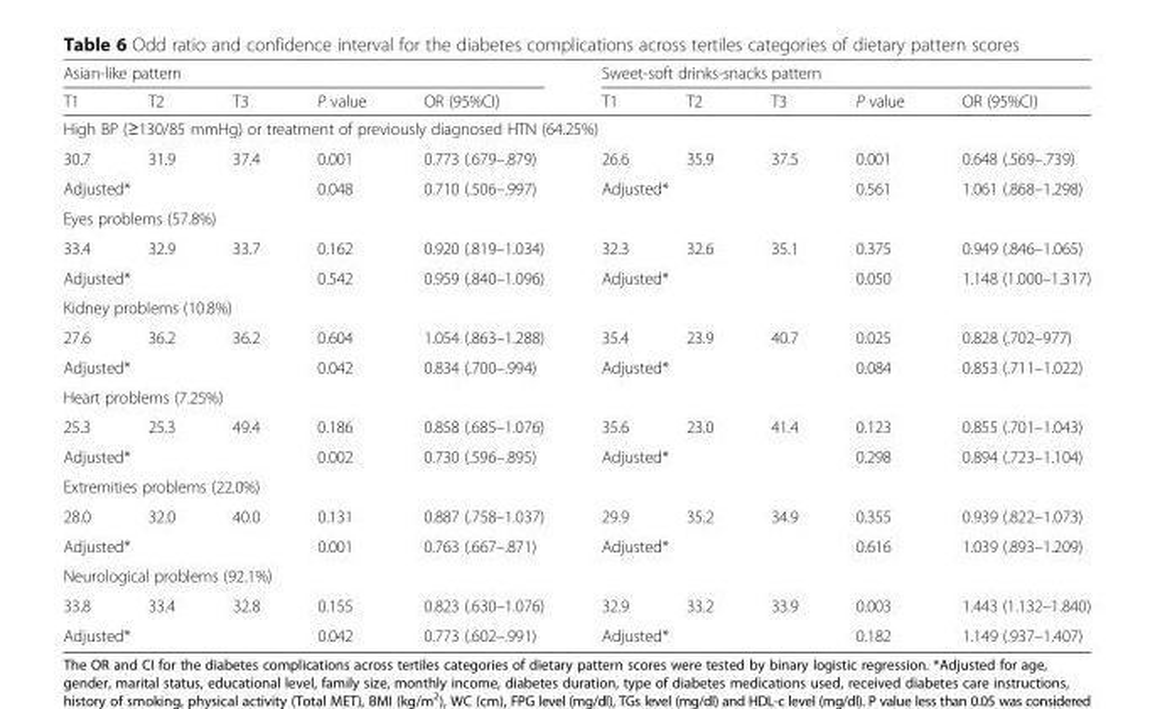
<table><thead><tr><td colspan="5">Asian-like pattern</td><td colspan="5">Sweet-soft drinks-snacks pattern</td></tr><tr><td>T1</td><td>T2</td><td>T3</td><td>P value</td><td>OR (95%CI)</td><td>T1</td><td>T2</td><td>T3</td><td>P value</td><td>OR (95%CI)</td></tr></thead><tbody><tr><td colspan="10">High BP (≥130/85 mmHg) or treatment of previously diagnosed HTN (64.25%)</td></tr><tr><td>30.7</td><td>31.9</td><td>37.4</td><td>0.001</td><td>0.773 (.679–.879)</td><td>26.6</td><td>35.9</td><td>37.5</td><td>0.001</td><td>0.648 (.569–.739)</td></tr><tr><td colspan="3">Adjusted*</td><td>0.048</td><td>0.710 (.506–.997)</td><td colspan="3">Adjusted*</td><td>0.561</td><td>1.061 (.868–1.298)</td></tr><tr><td colspan="10">Eyes problems (57.8%)</td></tr><tr><td>33.4</td><td>32.9</td><td>33.7</td><td>0.162</td><td>0.920 (.819–1.034)</td><td>32.3</td><td>32.6</td><td>35.1</td><td>0.375</td><td>0.949 (.846–1.065)</td></tr><tr><td colspan="3">Adjusted*</td><td>0.542</td><td>0.959 (.840–1.096)</td><td colspan="3">Adjusted*</td><td>0.050</td><td>1.148 (1.000–1.317)</td></tr><tr><td colspan="10">Kidney problems (10.8%)</td></tr><tr><td>27.6</td><td>36.2</td><td>36.2</td><td>0.604</td><td>1.054 (.863–1.288)</td><td>35.4</td><td>23.9</td><td>40.7</td><td>0.025</td><td>0.828 (.702–977)</td></tr><tr><td colspan="3">Adjusted*</td><td>0.042</td><td>0.834 (.700–.994)</td><td colspan="3">Adjusted*</td><td>0.084</td><td>0.853 (.711–1.022)</td></tr><tr><td colspan="10">Heart problems (7.25%)</td></tr><tr><td>25.3</td><td>25.3</td><td>49.4</td><td>0.186</td><td>0.858 (.685–1.076)</td><td>35.6</td><td>23.0</td><td>41.4</td><td>0.123</td><td>0.855 (.701–1.043)</td></tr><tr><td colspan="3">Adjusted*</td><td>0.002</td><td>0.730 (.596–.895)</td><td colspan="3">Adjusted*</td><td>0.298</td><td>0.894 (.723–1.104)</td></tr><tr><td colspan="10">Extremities problems (22.0%)</td></tr><tr><td>28.0</td><td>32.0</td><td>40.0</td><td>0.131</td><td>0.887 (.758–1.037)</td><td>29.9</td><td>35.2</td><td>34.9</td><td>0.355</td><td>0.939 (.822–1.073)</td></tr><tr><td colspan="3">Adjusted*</td><td>0.001</td><td>0.763 (.667–.871)</td><td colspan="3">Adjusted*</td><td>0.616</td><td>1.039 (.893–1.209)</td></tr><tr><td colspan="10">Neurological problems (92.1%)</td></tr><tr><td>33.8</td><td>33.4</td><td>32.8</td><td>0.155</td><td>0.823 (.630–1.076)</td><td>32.9</td><td>33.2</td><td>33.9</td><td>0.003</td><td>1.443 (1.132–1.840)</td></tr><tr><td colspan="3">Adjusted*</td><td>0.042</td><td>0.773 (.602–.991)</td><td colspan="3">Adjusted*</td><td>0.182</td><td>1.149 (.937–1.407)</td></tr></tbody></table>